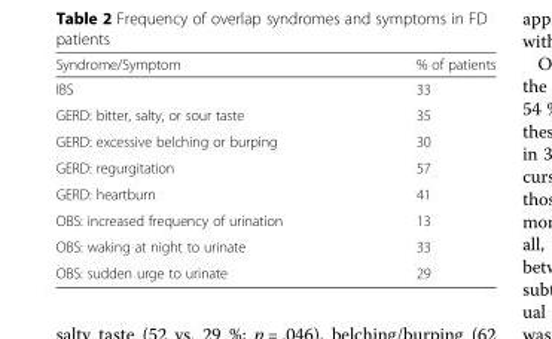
<table><thead><tr><td>Syndrome/Symptom</td><td>% of patients</td></tr></thead><tbody><tr><td>IBS</td><td>33</td></tr><tr><td>GERD: bitter, salty, or sour taste</td><td>35</td></tr><tr><td>GERD: excessive belching or burping</td><td>30</td></tr><tr><td>GERD: regurgitation</td><td>57</td></tr><tr><td>GERD: heartburn</td><td>41</td></tr><tr><td>OBS: increased frequency of urination</td><td>13</td></tr><tr><td>OBS: waking at night to urinate</td><td>33</td></tr><tr><td>OBS: sudden urge to urinate</td><td>29</td></tr></tbody></table>